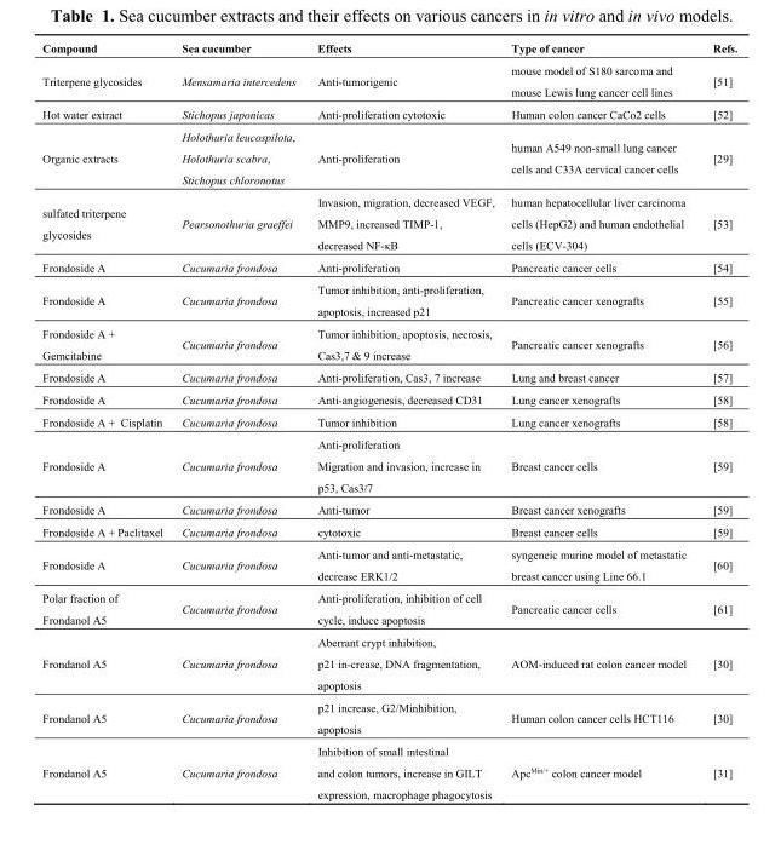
<table><thead><tr><td>Compound</td><td>Sea cucumber</td><td>Effects</td><td>Type of cancer</td><td>Refs.</td></tr></thead><tbody><tr><td>Triterpene glycosides</td><td>Mensamaria intercedens</td><td>Anti-tumorigenic</td><td>mouse model of S180 sarcoma and mouse Lewis lung cancer cell lines</td><td>[51]</td></tr><tr><td>Hot water extract</td><td>Stichopus japonicas</td><td>Anti-proliferation cytotoxic</td><td>Human colon cancer CaCo2 cells</td><td>[52]</td></tr><tr><td>Organic extracts</td><td>Holothuria leucospilota, Holothuria scabra, Stichopus chloronotus</td><td>Anti-proliferation</td><td>human A549 non-small lung cancer cells and C33A cervical cancer cells</td><td>[29]</td></tr><tr><td>sulfated triterpene glycosides</td><td>Pearsonothuria graeffei</td><td>Invasion, migration, decreased VEGF, MMP9, increased TIMP-1, decreased NF-κB</td><td>human hepatocellular liver carcinoma cells (HepG2) and human endothelial cells (ECV-304)</td><td>[53]</td></tr><tr><td>Frondoside A</td><td>Cucumaria frondosa</td><td>Anti-proliferation</td><td>Pancreatic cancer cells</td><td>[54]</td></tr><tr><td>Frondoside A</td><td>Cucumaria frondosa</td><td>Tumor inhibition, anti-proliferation, apoptosis, increased p21</td><td>Pancreatic cancer xenografts</td><td>[55]</td></tr><tr><td>Frondoside A + Gemcitabine</td><td>Cucumaria frondosa</td><td>Tumor inhibition, apoptosis, necrosis, Cas3,7 &amp; 9 increase</td><td>Pancreatic cancer xenografts</td><td>[56]</td></tr><tr><td>Frondoside A</td><td>Cucumaria frondosa</td><td>Anti-proliferation, Cas3, 7 increase</td><td>Lung and breast cancer</td><td>[57]</td></tr><tr><td>Frondoside A</td><td>Cucumaria frondosa</td><td>Anti-angiogenesis, decreased CD31</td><td>Lung cancer xenografts</td><td>[58]</td></tr><tr><td>Frondoside A + Cisplatin</td><td>Cucumaria frondosa</td><td>Tumor inhibition</td><td>Lung cancer xenografts</td><td>[58]</td></tr><tr><td>Frondoside A</td><td>Cucumaria frondosa</td><td>Anti-proliferation Migration and invasion, increase in p53, Cas3/7</td><td>Breast cancer cells</td><td>[59]</td></tr><tr><td>Frondoside A</td><td>Cucumaria frondosa</td><td>Anti-tumor</td><td>Breast cancer xenografts</td><td>[59]</td></tr><tr><td>Frondoside A + Paclitaxel</td><td>Cucumaria frondosa</td><td>cytotoxic</td><td>Breast cancer cells</td><td>[59]</td></tr><tr><td>Frondoside A</td><td>Cucumaria frondosa</td><td>Anti-tumor and anti-metastatic, decrease ERK1/2</td><td>syngeneic murine model of metastatic breast cancer using Line 66.1</td><td>[60]</td></tr><tr><td>Polar fraction of Frondanol A5</td><td>Cucumaria frondosa</td><td>Anti-proliferation, inhibition of cell cycle, induce apoptosis</td><td>Pancreatic cancer cells</td><td>[61]</td></tr><tr><td>Frondanol A5</td><td>Cucumaria frondosa</td><td>Aberrant crypt inhibition, p21 in-crease, DNA fragmentation, apoptosis</td><td>AOM-induced rat colon cancer model</td><td>[30]</td></tr><tr><td>Frondanol A5</td><td>Cucumaria frondosa</td><td>p21 increase, G2/Minhibition, apoptosis</td><td>Human colon cancer cells HCT116</td><td>[30]</td></tr><tr><td>Frondanol A5</td><td>Cucumaria frondosa</td><td>Inhibition of small intestinal and colon tumors, increase in GILT expression, macrophage phagocytosis</td><td>Apc<sup>Min/+</sup> colon cancer model</td><td>[31]</td></tr></tbody></table>